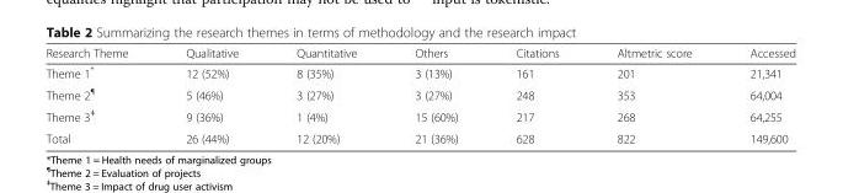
<table><thead><tr><td>Research Theme</td><td>Qualitative</td><td>Quantitative</td><td>Others</td><td>Citations</td><td>Altmetric score</td><td>Accessed</td></tr></thead><tbody><tr><td>Theme 1*</td><td>12 (52%)</td><td>8 (35%)</td><td>3 (13%)</td><td>161</td><td>201</td><td>21,341</td></tr><tr><td>Theme 2<sup>¶</sup></td><td>5 (46%)</td><td>3 (27%)</td><td>3 (27%)</td><td>248</td><td>353</td><td>64,004</td></tr><tr><td>Theme 3<sup>ǂ</sup></td><td>9 (36%)</td><td>1 (4%)</td><td>15 (60%)</td><td>217</td><td>268</td><td>64,255</td></tr><tr><td>Total</td><td>26 (44%)</td><td>12 (20%)</td><td>21 (36%)</td><td>628</td><td>822</td><td>149,600</td></tr></tbody></table>